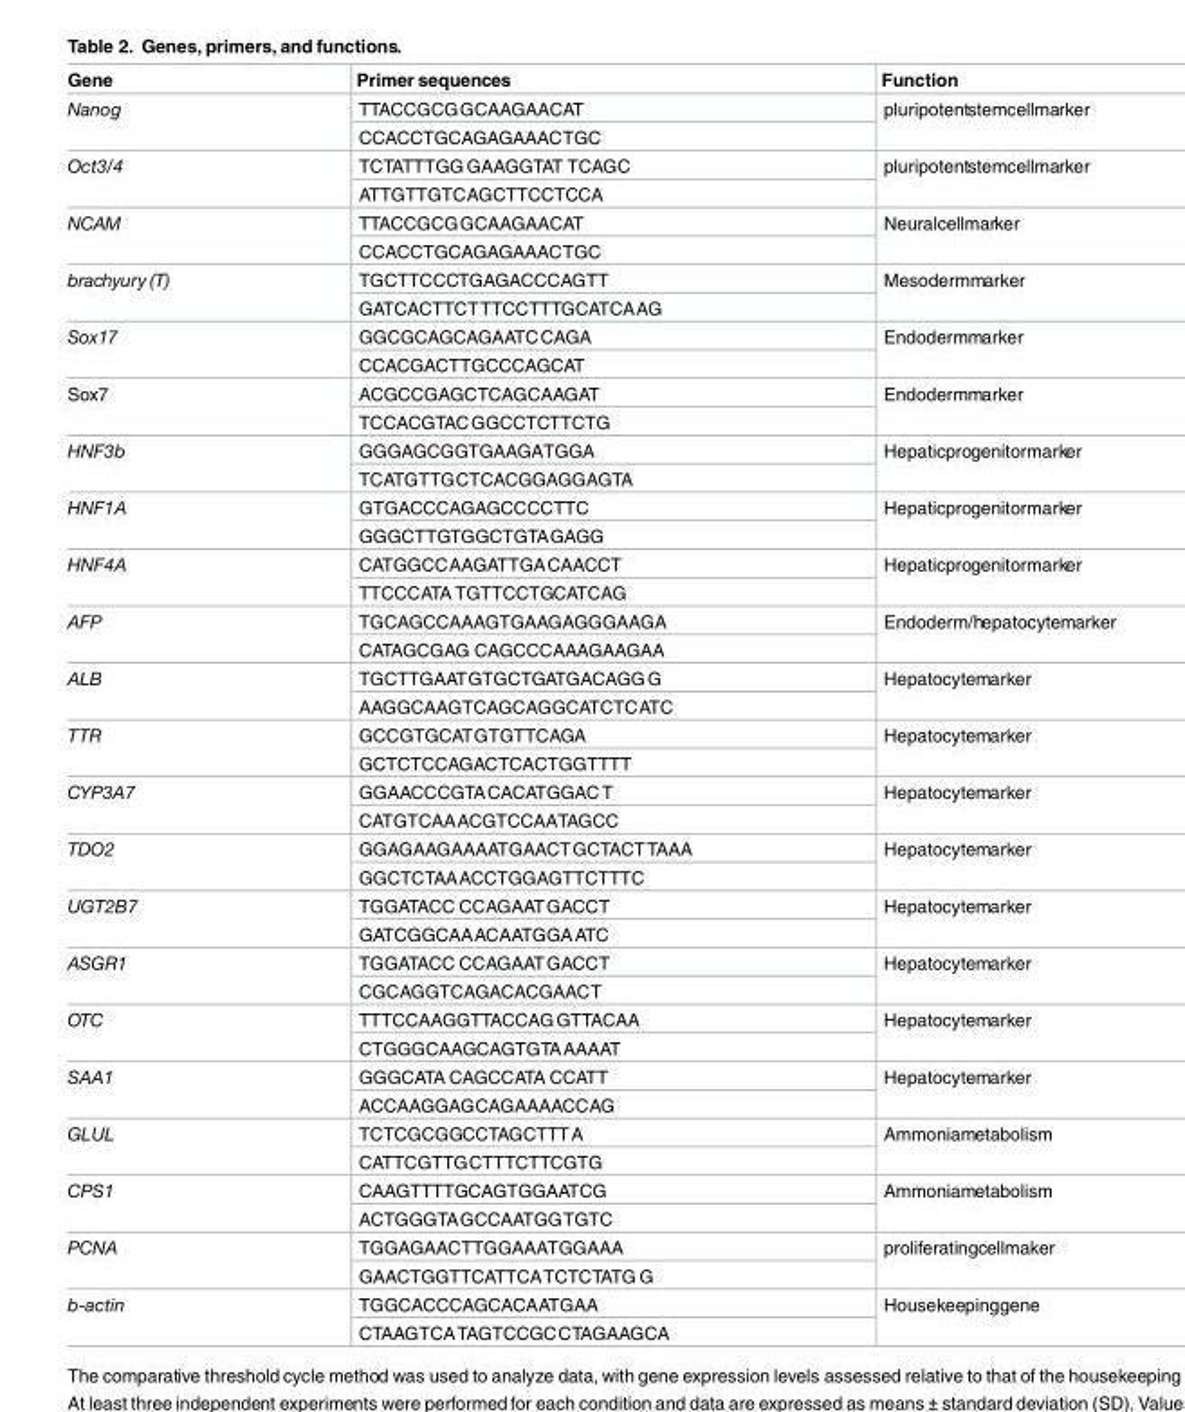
<table><thead><tr><td>Gene</td><td>Primer sequences</td><td>Function</td></tr></thead><tbody><tr><td rowspan="2">Nanog</td><td>TTACCGCGGCAAGAACAT</td><td rowspan="2">pluripotentstemcellmarker</td></tr><tr><td>CCACCTGCAGAGAAACTGC</td></tr><tr><td rowspan="2">Oct3/4</td><td>TCTATTTGG GAAGGTAT TCAGC</td><td rowspan="2">pluripotentstemcellmarker</td></tr><tr><td>ATTGTTGTCAGCTTCCTCCA</td></tr><tr><td rowspan="2">NCAM</td><td>TTACCGCGGCAAGAACAT</td><td rowspan="2">Neuralcellmarker</td></tr><tr><td>CCACCTGCAGAGAAACTGC</td></tr><tr><td rowspan="2">brachyury (T)</td><td>TGCTTCCCTGAGACCCAGTT</td><td rowspan="2">Mesodermmarker</td></tr><tr><td>GATCACTTCTTTCCTTTGCATCAAG</td></tr><tr><td rowspan="2">Sox17</td><td>GGCGCAGCAGAATCCAGA</td><td rowspan="2">Endodermmarker</td></tr><tr><td>CCACGACTTGCCCAGCAT</td></tr><tr><td rowspan="2">Sox7</td><td>ACGCCGAGCTCAGCAAGAT</td><td rowspan="2">Endodermmarker</td></tr><tr><td>TCCACGTACGGCCTCTTCTG</td></tr><tr><td rowspan="2">HNF3b</td><td>GGGAGCGGTGAAGATGGA</td><td rowspan="2">Hepaticprogenitormarker</td></tr><tr><td>TCATGTTGCTCACGGAGGAGTA</td></tr><tr><td rowspan="2">HNF1A</td><td>GTGACCCAGAGCCCCTTC</td><td rowspan="2">Hepaticprogenitormarker</td></tr><tr><td>GGGCTTGTGGCTGTAGAGG</td></tr><tr><td rowspan="2">HNF4A</td><td>CATGGCCAAGATTGACAACCT</td><td rowspan="2">Hepaticprogenitormarker</td></tr><tr><td>TTCCCATA TGTTCCTGCATCAG</td></tr><tr><td rowspan="2">AFP</td><td>TGCAGCCAAAGTGAAGAGGGAAGA</td><td rowspan="2">Endoderm/hepatocytemarker</td></tr><tr><td>CATAGCGAG CAGCCCAAAGAAGAA</td></tr><tr><td rowspan="2">ALB</td><td>TGCTTGAATGTGCTGATGACAGGG</td><td rowspan="2">Hepatocytemarker</td></tr><tr><td>AAGGCAAGTCAGCAGGCATCTCATC</td></tr><tr><td rowspan="2">TTR</td><td>GCCGTGCATGTGTTCAGA</td><td rowspan="2">Hepatocytemarker</td></tr><tr><td>GCTCTCCAGACTCACTGGTTTT</td></tr><tr><td rowspan="2">CYP3A7</td><td>GGAACCCGTACACATGGACT</td><td rowspan="2">Hepatocytemarker</td></tr><tr><td>CATGTCAAACGTCCAATAGCC</td></tr><tr><td rowspan="2">TDO2</td><td>GGAGAAGAAAATGAACTGCTACTTAAA</td><td rowspan="2">Hepatocytemarker</td></tr><tr><td>GGCTCTAAACCTGGAGTTCTTTC</td></tr><tr><td rowspan="2">UGT2B7</td><td>TGGATACC CCAGAATGACCT</td><td rowspan="2">Hepatocytemarker</td></tr><tr><td>GATCGGCAAACAATGGAATC</td></tr><tr><td rowspan="2">ASGR1</td><td>TGGATACC CCAGAATGACCT</td><td rowspan="2">Hepatocytemarker</td></tr><tr><td>CGCAGGTCAGACACGAACT</td></tr><tr><td rowspan="2">OTC</td><td>TTTCCAAGGTTACCAGGTTACAA</td><td rowspan="2">Hepatocytemarker</td></tr><tr><td>CTGGGCAAGCAGTGTAAAAAT</td></tr><tr><td rowspan="2">SAA1</td><td>GGGCATA CAGCCATA CCATT</td><td rowspan="2">Hepatocytemarker</td></tr><tr><td>ACCAAGGAGCAGAAAACCAG</td></tr><tr><td rowspan="2">GLUL</td><td>TCTCGCGGCCTAGCTTTA</td><td rowspan="2">Ammoniametabolism</td></tr><tr><td>CATTCGTTGCTTTCTTCGTG</td></tr><tr><td rowspan="2">CPS1</td><td>CAAGTTTTGCAGTGGAATCG</td><td rowspan="2">Ammoniametabolism</td></tr><tr><td>ACTGGGTAGCCAATGGTGTC</td></tr><tr><td rowspan="2">PCNA</td><td>TGGAGAACTTGGAAATGGAAA</td><td rowspan="2">proliferatingcellmaker</td></tr><tr><td>GAACTGGTTCATTCATCTCTATG G</td></tr><tr><td rowspan="2">b-actin</td><td>TGGCACCCAGCACAATGAA</td><td rowspan="2">Housekeepinggene</td></tr><tr><td>CTAAGTCATAGTCCGCCTAGAAGCA</td></tr></tbody></table>